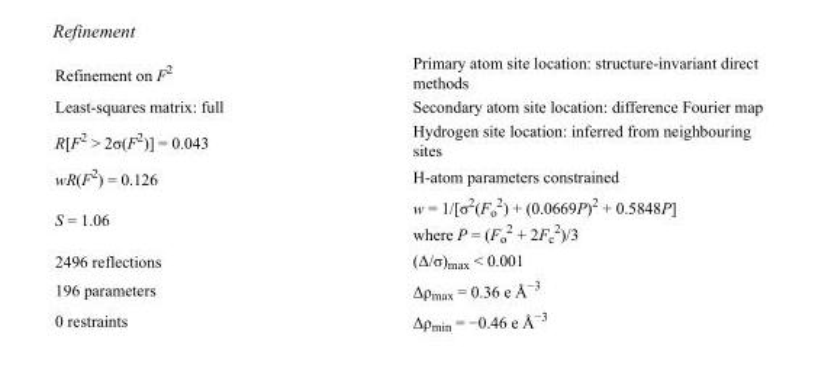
<table><tbody><tr><td>Refinement on F<sup>2</sup></td><td>Primary atom site location: structure-invariant direct methods</td></tr><tr><td>Least-squares matrix: full</td><td>Secondary atom site location: difference Fourier map</td></tr><tr><td>R[F<sup>2</sup> &gt; 2σ(F<sup>2</sup>)] = 0.043</td><td>Hydrogen site location: inferred from neighbouring sites</td></tr><tr><td>wR(F<sup>2</sup>) = 0.126</td><td>H-atom parameters constrained</td></tr><tr><td>S = 1.06</td><td>w = 1/[σ<sup>2</sup>(F<sub>o</sub> <sup>2</sup>) + (0.0669P)<sup>2</sup> + 0.5848P] where P = (F<sub>o</sub> <sup>2</sup> + 2F<sub>c</sub> <sup>2</sup>)/3</td></tr><tr><td>2496 reflections</td><td>(Δ/σ)<sub>max</sub> &lt; 0.001</td></tr><tr><td>196 parameters</td><td>Δρ<sub>max</sub> = 0.36 e Å<sup>−3</sup></td></tr><tr><td>0 restraints</td><td>Δρ<sub>min</sub> = −0.46 e Å<sup>−3</sup></td></tr></tbody></table>